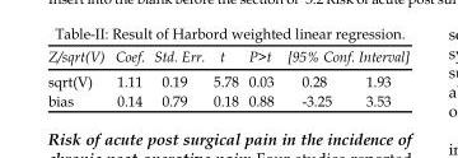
<table><thead><tr><td rowspan="2">Z/sqrt(V) sqrt(V)</td><td rowspan="2">Coef. 1.11</td><td rowspan="2">Std. Err. 0.19</td><td rowspan="2">t 5.78</td><td rowspan="2">P&gt;t 0.03</td><td colspan="2">[95% Conf. Interval]</td></tr><tr><td>0.28</td><td>1.93</td></tr></thead><tbody><tr><td>bias</td><td>0.14</td><td>0.79</td><td>0.18</td><td>0.88</td><td>-3.25</td><td>3.53</td></tr></tbody></table>